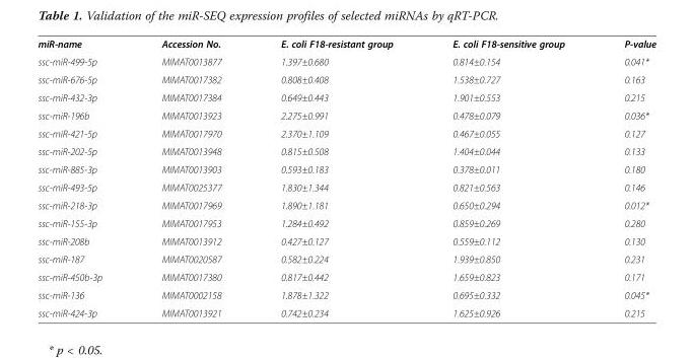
<table><tbody><tr><td>miR-name</td><td>Accession No.</td><td>E. coli F18-resistant group</td><td>E. coli F18-sensitive group</td><td>P-value</td></tr><tr><td>ssc-miR-499-5p</td><td>MIMAT0013877</td><td>1.397±0.680</td><td>0.814±0.154</td><td>0.041*</td></tr><tr><td>ssc-miR-676-5p</td><td>MIMAT0017382</td><td>0.808±0.408</td><td>1.538±0.727</td><td>0.163</td></tr><tr><td>ssc-miR-432-3p</td><td>MIMAT0017384</td><td>0.649±0.443</td><td>1.901±0.553</td><td>0.215</td></tr><tr><td>ssc-miR-196b</td><td>MIMAT0013923</td><td>2.275±0.991</td><td>0.478±0.079</td><td>0.036*</td></tr><tr><td>ssc-miR-421-5p</td><td>MIMAT0017970</td><td>2.370±1.109</td><td>0.467±0.055</td><td>0.127</td></tr><tr><td>ssc-miR-202-5p</td><td>MIMAT0013948</td><td>0.815±0.508</td><td>1.404±0.044</td><td>0.133</td></tr><tr><td>ssc-miR-885-3p</td><td>MIMAT0013903</td><td>0.593±0.183</td><td>0.378±0.011</td><td>0.180</td></tr><tr><td>ssc-miR-493-5p</td><td>MIMAT0025377</td><td>1.830±1.344</td><td>0.821±0.563</td><td>0.146</td></tr><tr><td>ssc-miR-218-3p</td><td>MIMAT0017969</td><td>1.890±1.181</td><td>0.650±0.294</td><td>0.012*</td></tr><tr><td>ssc-miR-155-3p</td><td>MIMAT0017953</td><td>1.284±0.492</td><td>0.859±0.269</td><td>0.280</td></tr><tr><td>ssc-miR-208b</td><td>MIMAT0013912</td><td>0.427±0.127</td><td>0.559±0.112</td><td>0.130</td></tr><tr><td>ssc-miR-187</td><td>MIMAT0020587</td><td>0.582±0.224</td><td>1.939±0.850</td><td>0.231</td></tr><tr><td>ssc-miR-450b-3p</td><td>MIMAT0017380</td><td>0.817±0.442</td><td>1.659±0.823</td><td>0.171</td></tr><tr><td>ssc-miR-136</td><td>MIMAT0002158</td><td>1.878±1.322</td><td>0.695±0.332</td><td>0.045*</td></tr><tr><td>ssc-miR-424-3p</td><td>MIMAT0013921</td><td>0.742±0.234</td><td>1.625±0.926</td><td>0.215</td></tr></tbody></table>